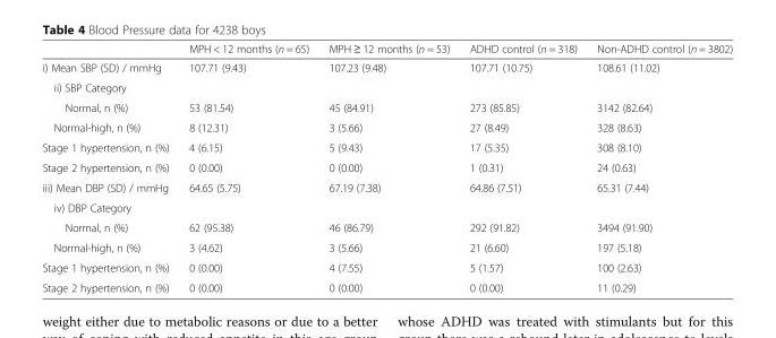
<table><thead><tr><td></td><td>MPH &lt; 12 months (n = 65)</td><td>MPH ≥ 12 months (n = 53)</td><td>ADHD control (n = 318)</td><td>Non-ADHD control (n = 3802)</td></tr></thead><tbody><tr><td>i) Mean SBP (SD) / mmHg</td><td>107.71 (9.43)</td><td>107.23 (9.48)</td><td>107.71 (10.75)</td><td>108.61 (11.02)</td></tr><tr><td colspan="5">ii) SBP Category</td></tr><tr><td>Normal, n (%)</td><td>53 (81.54)</td><td>45 (84.91)</td><td>273 (85.85)</td><td>3142 (82.64)</td></tr><tr><td>Normal-high, n (%)</td><td>8 (12.31)</td><td>3 (5.66)</td><td>27 (8.49)</td><td>328 (8.63)</td></tr><tr><td>Stage 1 hypertension, n (%)</td><td>4 (6.15)</td><td>5 (9.43)</td><td>17 (5.35)</td><td>308 (8.10)</td></tr><tr><td>Stage 2 hypertension, n (%)</td><td>0 (0.00)</td><td>0 (0.00)</td><td>1 (0.31)</td><td>24 (0.63)</td></tr><tr><td>iii) Mean DBP (SD) / mmHg</td><td>64.65 (5.75)</td><td>67.19 (7.38)</td><td>64.86 (7.51)</td><td>65.31 (7.44)</td></tr><tr><td colspan="5">iv) DBP Category</td></tr><tr><td>Normal, n (%)</td><td>62 (95.38)</td><td>46 (86.79)</td><td>292 (91.82)</td><td>3494 (91.90)</td></tr><tr><td>Normal-high, n (%)</td><td>3 (4.62)</td><td>3 (5.66)</td><td>21 (6.60)</td><td>197 (5.18)</td></tr><tr><td>Stage 1 hypertension, n (%)</td><td>0 (0.00)</td><td>4 (7.55)</td><td>5 (1.57)</td><td>100 (2.63)</td></tr><tr><td>Stage 2 hypertension, n (%)</td><td>0 (0.00)</td><td>0 (0.00)</td><td>0 (0.00)</td><td>11 (0.29)</td></tr></tbody></table>